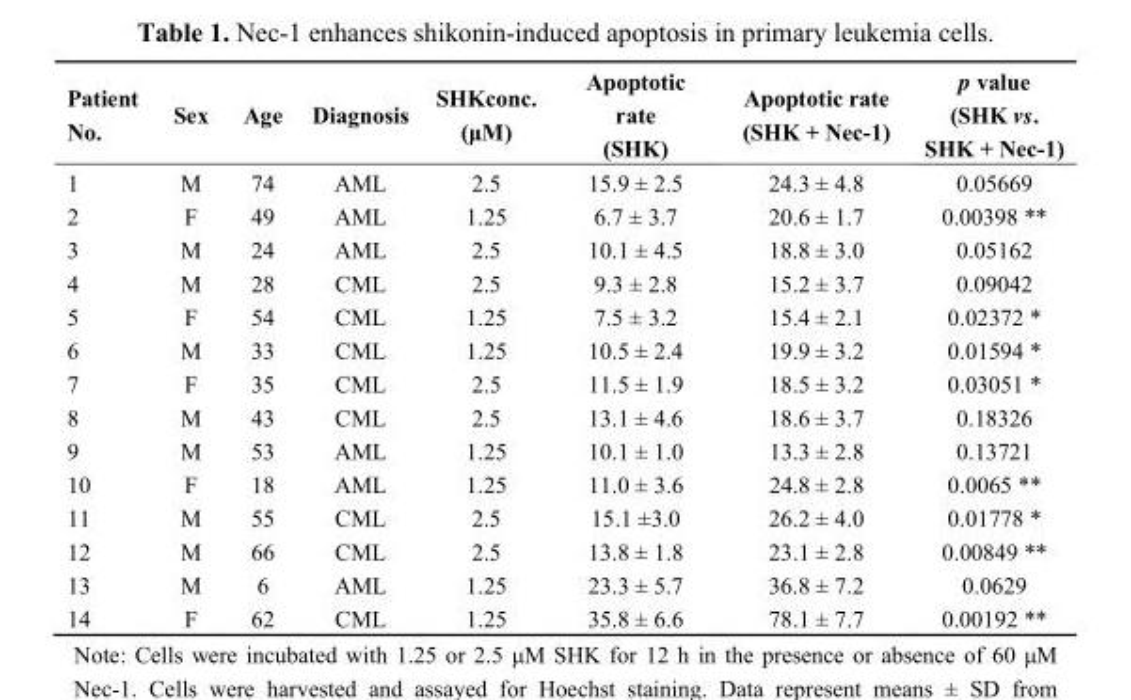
<table><thead><tr><td>Patient No.</td><td>Sex</td><td>Age</td><td>Diagnosis</td><td>SHKconc. (μM)</td><td>Apoptotic rate (SHK)</td><td>Apoptotic rate (SHK + Nec-1)</td><td>p value (SHK vs. SHK + Nec-1)</td></tr></thead><tbody><tr><td>1</td><td>M</td><td>74</td><td>AML</td><td>2.5</td><td>15.9 ± 2.5</td><td>24.3 ± 4.8</td><td>0.05669</td></tr><tr><td>2</td><td>F</td><td>49</td><td>AML</td><td>1.25</td><td>6.7 ± 3.7</td><td>20.6 ± 1.7</td><td>0.00398 **</td></tr><tr><td>3</td><td>M</td><td>24</td><td>AML</td><td>2.5</td><td>10.1 ± 4.5</td><td>18.8 ± 3.0</td><td>0.05162</td></tr><tr><td>4</td><td>M</td><td>28</td><td>CML</td><td>2.5</td><td>9.3 ± 2.8</td><td>15.2 ± 3.7</td><td>0.09042</td></tr><tr><td>5</td><td>F</td><td>54</td><td>CML</td><td>1.25</td><td>7.5 ± 3.2</td><td>15.4 ± 2.1</td><td>0.02372 *</td></tr><tr><td>6</td><td>M</td><td>33</td><td>CML</td><td>1.25</td><td>10.5 ± 2.4</td><td>19.9 ± 3.2</td><td>0.01594 *</td></tr><tr><td>7</td><td>F</td><td>35</td><td>CML</td><td>2.5</td><td>11.5 ± 1.9</td><td>18.5 ± 3.2</td><td>0.03051 *</td></tr><tr><td>8</td><td>M</td><td>43</td><td>CML</td><td>2.5</td><td>13.1 ± 4.6</td><td>18.6 ± 3.7</td><td>0.18326</td></tr><tr><td>9</td><td>M</td><td>53</td><td>AML</td><td>1.25</td><td>10.1 ± 1.0</td><td>13.3 ± 2.8</td><td>0.13721</td></tr><tr><td>10</td><td>F</td><td>18</td><td>AML</td><td>1.25</td><td>11.0 ± 3.6</td><td>24.8 ± 2.8</td><td>0.0065 **</td></tr><tr><td>11</td><td>M</td><td>55</td><td>CML</td><td>2.5</td><td>15.1 ±3.0</td><td>26.2 ± 4.0</td><td>0.01778 *</td></tr><tr><td>12</td><td>M</td><td>66</td><td>CML</td><td>2.5</td><td>13.8 ± 1.8</td><td>23.1 ± 2.8</td><td>0.00849 **</td></tr><tr><td>13</td><td>M</td><td>6</td><td>AML</td><td>1.25</td><td>23.3 ± 5.7</td><td>36.8 ± 7.2</td><td>0.0629</td></tr><tr><td>14</td><td>F</td><td>62</td><td>CML</td><td>1.25</td><td>35.8 ± 6.6</td><td>78.1 ± 7.7</td><td>0.00192 **</td></tr></tbody></table>